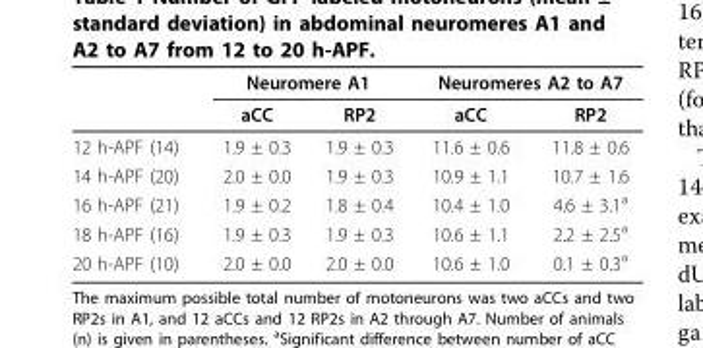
<table><thead><tr><td rowspan="2"></td><td colspan="2">Neuromere A1</td><td colspan="2">Neuromeres A2 to A7</td></tr><tr><td>aCC</td><td>RP2</td><td>aCC</td><td>RP2</td></tr></thead><tbody><tr><td>12 h-APF (14)</td><td>1.9 ± 0.3</td><td>1.9 ± 0.3</td><td>11.6 ± 0.6</td><td>11.8 ± 0.6</td></tr><tr><td>14 h-APF (20)</td><td>2.0 ± 0.0</td><td>1.9 ± 0.3</td><td>10.9 ± 1.1</td><td>10.7 ± 1.6</td></tr><tr><td>16 h-APF (21)</td><td>1.9 ± 0.2</td><td>1.8 ± 0.4</td><td>10.4 ± 1.0</td><td>4.6 ± 3.1<sup>a</sup></td></tr><tr><td>18 h-APF (16)</td><td>1.9 ± 0.3</td><td>1.9 ± 0.3</td><td>10.6 ± 1.1</td><td>2.2 ± 2.5<sup>a</sup></td></tr><tr><td>20 h-APF (10)</td><td>2.0 ± 0.0</td><td>2.0 ± 0.0</td><td>10.6 ± 1.0</td><td>0.1 ± 0.3<sup>a</sup></td></tr></tbody></table>